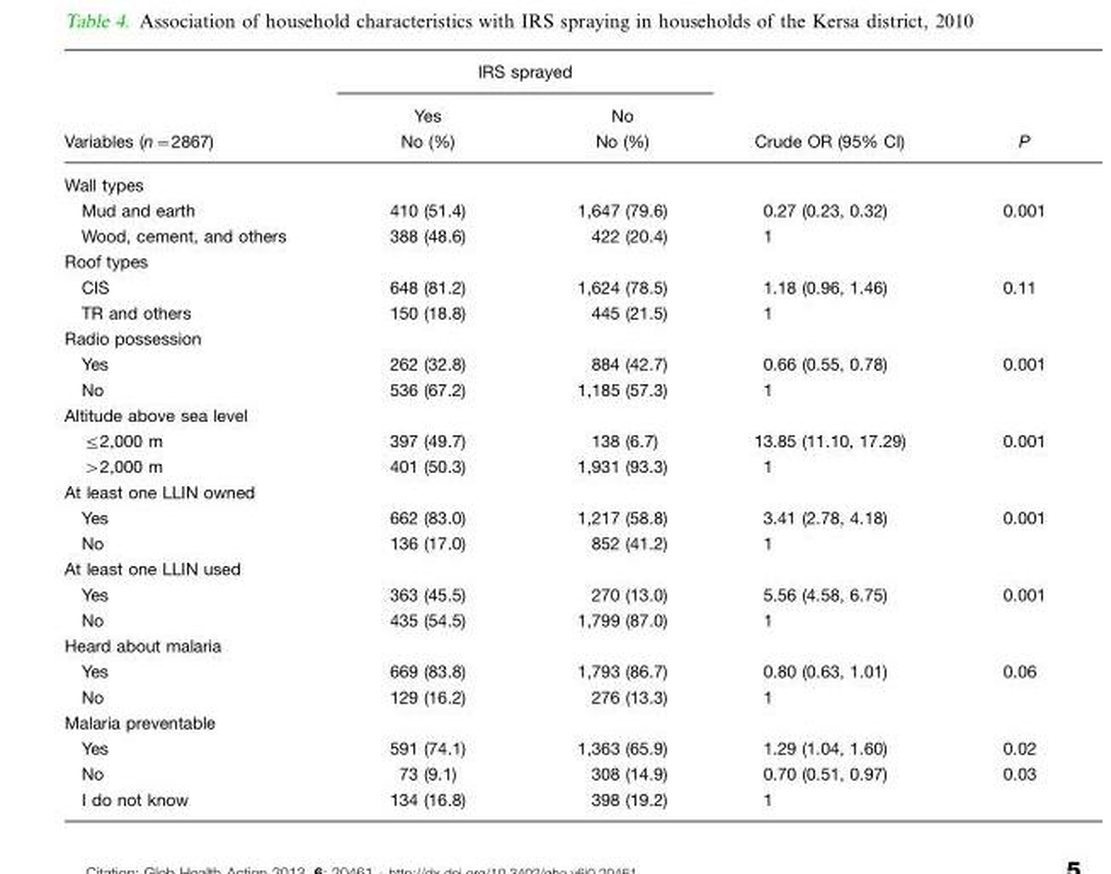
<table><thead><tr><td rowspan="2">Variables (n=2867)</td><td colspan="2">IRS sprayed</td><td rowspan="2">Crude OR (95% CI)</td><td rowspan="2">P</td></tr><tr><td>Yes No (%)</td><td>No No (%)</td></tr></thead><tbody><tr><td colspan="5">Wall types</td></tr><tr><td>Mud and earth</td><td>410 (51.4)</td><td>1,647 (79.6)</td><td>0.27 (0.23, 0.32)</td><td>0.001</td></tr><tr><td>Wood, cement, and others</td><td>388 (48.6)</td><td>422 (20.4)</td><td>1</td><td></td></tr><tr><td colspan="5">Roof types</td></tr><tr><td>CIS</td><td>648 (81.2)</td><td>1,624 (78.5)</td><td>1.18 (0.96, 1.46)</td><td>0.11</td></tr><tr><td>TR and others</td><td>150 (18.8)</td><td>445 (21.5)</td><td>1</td><td></td></tr><tr><td colspan="5">Radio possession</td></tr><tr><td>Yes</td><td>262 (32.8)</td><td>884 (42.7)</td><td>0.66 (0.55, 0.78)</td><td>0.001</td></tr><tr><td>No</td><td>536 (67.2)</td><td>1,185 (57.3)</td><td>1</td><td></td></tr><tr><td colspan="5">Altitude above sea level</td></tr><tr><td>≤2,000 m</td><td>397 (49.7)</td><td>138 (6.7)</td><td>13.85 (11.10, 17.29)</td><td>0.001</td></tr><tr><td>&gt;2,000 m</td><td>401 (50.3)</td><td>1,931 (93.3)</td><td>1</td><td></td></tr><tr><td colspan="5">At least one LLIN owned</td></tr><tr><td>Yes</td><td>662 (83.0)</td><td>1,217 (58.8)</td><td>3.41 (2.78, 4.18)</td><td>0.001</td></tr><tr><td>No</td><td>136 (17.0)</td><td>852 (41.2)</td><td>1</td><td></td></tr><tr><td colspan="5">At least one LLIN used</td></tr><tr><td>Yes</td><td>363 (45.5)</td><td>270 (13.0)</td><td>5.56 (4.58, 6.75)</td><td>0.001</td></tr><tr><td>No</td><td>435 (54.5)</td><td>1,799 (87.0)</td><td>1</td><td></td></tr><tr><td colspan="5">Heard about malaria</td></tr><tr><td>Yes</td><td>669 (83.8)</td><td>1,793 (86.7)</td><td>0.80 (0.63, 1.01)</td><td>0.06</td></tr><tr><td>No</td><td>129 (16.2)</td><td>276 (13.3)</td><td>1</td><td></td></tr><tr><td colspan="5">Malaria preventable</td></tr><tr><td>Yes</td><td>591 (74.1)</td><td>1,363 (65.9)</td><td>1.29 (1.04, 1.60)</td><td>0.02</td></tr><tr><td>No</td><td>73 (9.1)</td><td>308 (14.9)</td><td>0.70 (0.51, 0.97)</td><td>0.03</td></tr><tr><td>I do not know</td><td>134 (16.8)</td><td>398 (19.2)</td><td>1</td><td></td></tr></tbody></table>